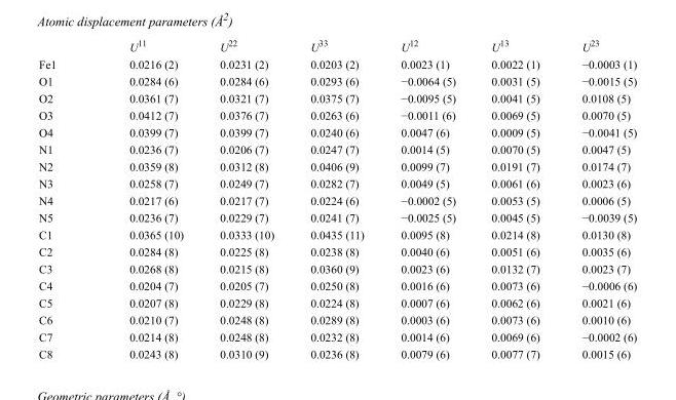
<table><thead><tr><td></td><td>U<sup>11</sup></td><td>U<sup>22</sup></td><td>U<sup>33</sup></td><td>U<sup>12</sup></td><td>U<sup>13</sup></td><td>U<sup>23</sup></td></tr></thead><tbody><tr><td>Fe1</td><td>0.0216 (2)</td><td>0.0231 (2)</td><td>0.0203 (2)</td><td>0.0023 (1)</td><td>0.0022 (1)</td><td>−0.0003 (1)</td></tr><tr><td>O1</td><td>0.0284 (6)</td><td>0.0284 (6)</td><td>0.0293 (6)</td><td>−0.0064 (5)</td><td>0.0031 (5)</td><td>−0.0015 (5)</td></tr><tr><td>O2</td><td>0.0361 (7)</td><td>0.0321 (7)</td><td>0.0375 (7)</td><td>−0.0095 (5)</td><td>0.0041 (5)</td><td>0.0108 (5)</td></tr><tr><td>O3</td><td>0.0412 (7)</td><td>0.0376 (7)</td><td>0.0263 (6)</td><td>−0.0011 (6)</td><td>0.0069 (5)</td><td>0.0070 (5)</td></tr><tr><td>O4</td><td>0.0399 (7)</td><td>0.0399 (7)</td><td>0.0240 (6)</td><td>0.0047 (6)</td><td>0.0009 (5)</td><td>−0.0041 (5)</td></tr><tr><td>N1</td><td>0.0236 (7)</td><td>0.0206 (7)</td><td>0.0247 (7)</td><td>0.0014 (5)</td><td>0.0070 (5)</td><td>0.0047 (5)</td></tr><tr><td>N2</td><td>0.0359 (8)</td><td>0.0312 (8)</td><td>0.0406 (9)</td><td>0.0099 (7)</td><td>0.0191 (7)</td><td>0.0174 (7)</td></tr><tr><td>N3</td><td>0.0258 (7)</td><td>0.0249 (7)</td><td>0.0282 (7)</td><td>0.0049 (5)</td><td>0.0061 (6)</td><td>0.0023 (6)</td></tr><tr><td>N4</td><td>0.0217 (6)</td><td>0.0217 (7)</td><td>0.0224 (6)</td><td>−0.0002 (5)</td><td>0.0053 (5)</td><td>0.0006 (5)</td></tr><tr><td>N5</td><td>0.0236 (7)</td><td>0.0229 (7)</td><td>0.0241 (7)</td><td>−0.0025 (5)</td><td>0.0045 (5)</td><td>−0.0039 (5)</td></tr><tr><td>C1</td><td>0.0365 (10)</td><td>0.0333 (10)</td><td>0.0435 (11)</td><td>0.0095 (8)</td><td>0.0214 (8)</td><td>0.0130 (8)</td></tr><tr><td>C2</td><td>0.0284 (8)</td><td>0.0225 (8)</td><td>0.0238 (8)</td><td>0.0040 (6)</td><td>0.0051 (6)</td><td>0.0035 (6)</td></tr><tr><td>C3</td><td>0.0268 (8)</td><td>0.0215 (8)</td><td>0.0360 (9)</td><td>0.0023 (6)</td><td>0.0132 (7)</td><td>0.0023 (7)</td></tr><tr><td>C4</td><td>0.0204 (7)</td><td>0.0205 (7)</td><td>0.0250 (8)</td><td>0.0016 (6)</td><td>0.0073 (6)</td><td>−0.0006 (6)</td></tr><tr><td>C5</td><td>0.0207 (8)</td><td>0.0229 (8)</td><td>0.0224 (8)</td><td>0.0007 (6)</td><td>0.0062 (6)</td><td>0.0021 (6)</td></tr><tr><td>C6</td><td>0.0210 (7)</td><td>0.0248 (8)</td><td>0.0289 (8)</td><td>0.0003 (6)</td><td>0.0073 (6)</td><td>0.0010 (6)</td></tr><tr><td>C7</td><td>0.0214 (8)</td><td>0.0248 (8)</td><td>0.0232 (8)</td><td>0.0014 (6)</td><td>0.0069 (6)</td><td>−0.0002 (6)</td></tr><tr><td>C8</td><td>0.0243 (8)</td><td>0.0310 (9)</td><td>0.0236 (8)</td><td>0.0079 (6)</td><td>0.0077 (7)</td><td>0.0015 (6)</td></tr></tbody></table>